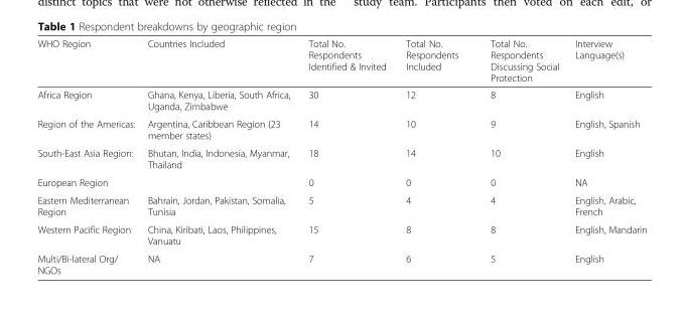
<table><thead><tr><td>WHO Region</td><td>Countries Included</td><td>Total No. Respondents Identified &amp; Invited</td><td>Total No. Respondents Included</td><td>Total No. Respondents Discussing Social Protection</td><td>Interview Language(s)</td></tr></thead><tbody><tr><td>Africa Region</td><td>Ghana, Kenya, Liberia, South Africa, Uganda, Zimbabwe</td><td>30</td><td>12</td><td>8</td><td>English</td></tr><tr><td>Region of the Americas:</td><td>Argentina, Caribbean Region (23 member states)</td><td>14</td><td>10</td><td>9</td><td>English, Spanish</td></tr><tr><td>South-East Asia Region:</td><td>Bhutan, India, Indonesia, Myanmar, Thailand</td><td>18</td><td>14</td><td>10</td><td>English</td></tr><tr><td>European Region</td><td></td><td>0</td><td>0</td><td>0</td><td>NA</td></tr><tr><td>Eastern Mediterranean Region</td><td>Bahrain, Jordan, Pakistan, Somalia, Tunisia</td><td>5</td><td>4</td><td>4</td><td>English, Arabic, French</td></tr><tr><td>Western Pacific Region</td><td>China, Kiribati, Laos, Philippines, Vanuatu</td><td>15</td><td>8</td><td>8</td><td>English, Mandarin</td></tr><tr><td>Multi/Bi-lateral Org/ NGOs</td><td>NA</td><td>7</td><td>6</td><td>5</td><td>English</td></tr></tbody></table>